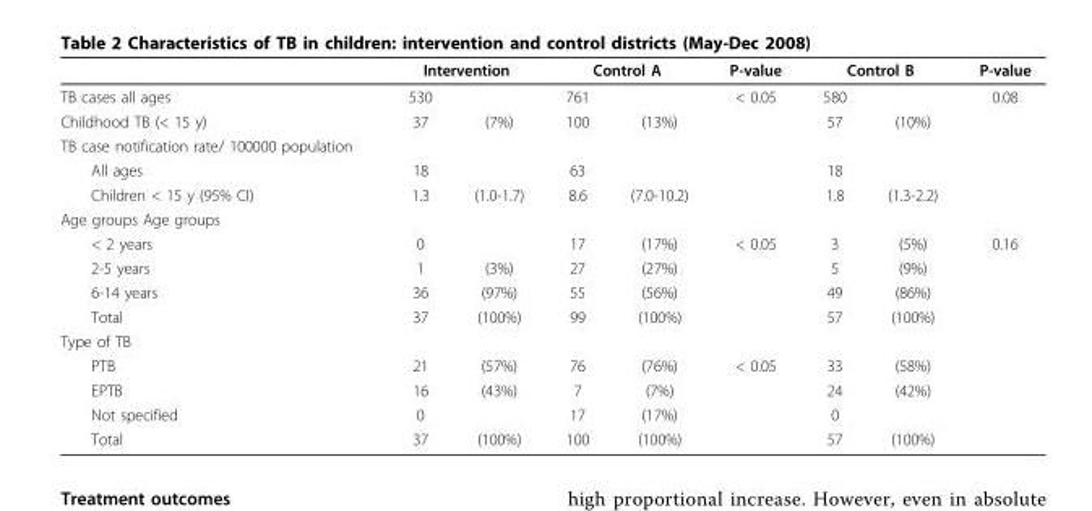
<table><thead><tr><td rowspan="2">TB cases all ages</td><td colspan="2">Intervention</td><td colspan="2">Control A</td><td rowspan="2">P-value &lt; 0.05</td><td colspan="2">Control B</td><td rowspan="2">P-value 0.08</td></tr><tr><td>530</td><td></td><td>761</td><td></td><td>580</td><td></td></tr></thead><tbody><tr><td>Childhood TB (&lt; 15 y)</td><td>37</td><td>(7%)</td><td>100</td><td>(13%)</td><td></td><td>57</td><td>(10%)</td><td></td></tr><tr><td colspan="9">TB case notification rate/ 100000 population</td></tr><tr><td>All ages</td><td>18</td><td></td><td>63</td><td></td><td></td><td>18</td><td></td><td></td></tr><tr><td>Children &lt; 15 y (95% CI)</td><td>1.3</td><td>(1.0-1.7)</td><td>8.6</td><td>(7.0-10.2)</td><td></td><td>1.8</td><td>(1.3-2.2)</td><td></td></tr><tr><td colspan="9">Age groups Age groups</td></tr><tr><td>&lt; 2 years</td><td>0</td><td></td><td>17</td><td>(17%)</td><td>&lt; 0.05</td><td>3</td><td>(5%)</td><td>0.16</td></tr><tr><td>2-5 years</td><td>1</td><td>(3%)</td><td>27</td><td>(27%)</td><td></td><td>5</td><td>(9%)</td><td></td></tr><tr><td>6-14 years</td><td>36</td><td>(97%)</td><td>55</td><td>(56%)</td><td></td><td>49</td><td>(86%)</td><td></td></tr><tr><td>Total</td><td>37</td><td>(100%)</td><td>99</td><td>(100%)</td><td></td><td>57</td><td>(100%)</td><td></td></tr><tr><td colspan="9">Type of TB</td></tr><tr><td>PTB</td><td>21</td><td>(57%)</td><td>76</td><td>(76%)</td><td>&lt; 0.05</td><td>33</td><td>(58%)</td><td></td></tr><tr><td>EPTB</td><td>16</td><td>(43%)</td><td>7</td><td>(7%)</td><td></td><td>24</td><td>(42%)</td><td></td></tr><tr><td>Not specified</td><td>0</td><td></td><td>17</td><td>(17%)</td><td></td><td>0</td><td></td><td></td></tr><tr><td>Total</td><td>37</td><td>(100%)</td><td>100</td><td>(100%)</td><td></td><td>57</td><td>(100%)</td><td></td></tr></tbody></table>